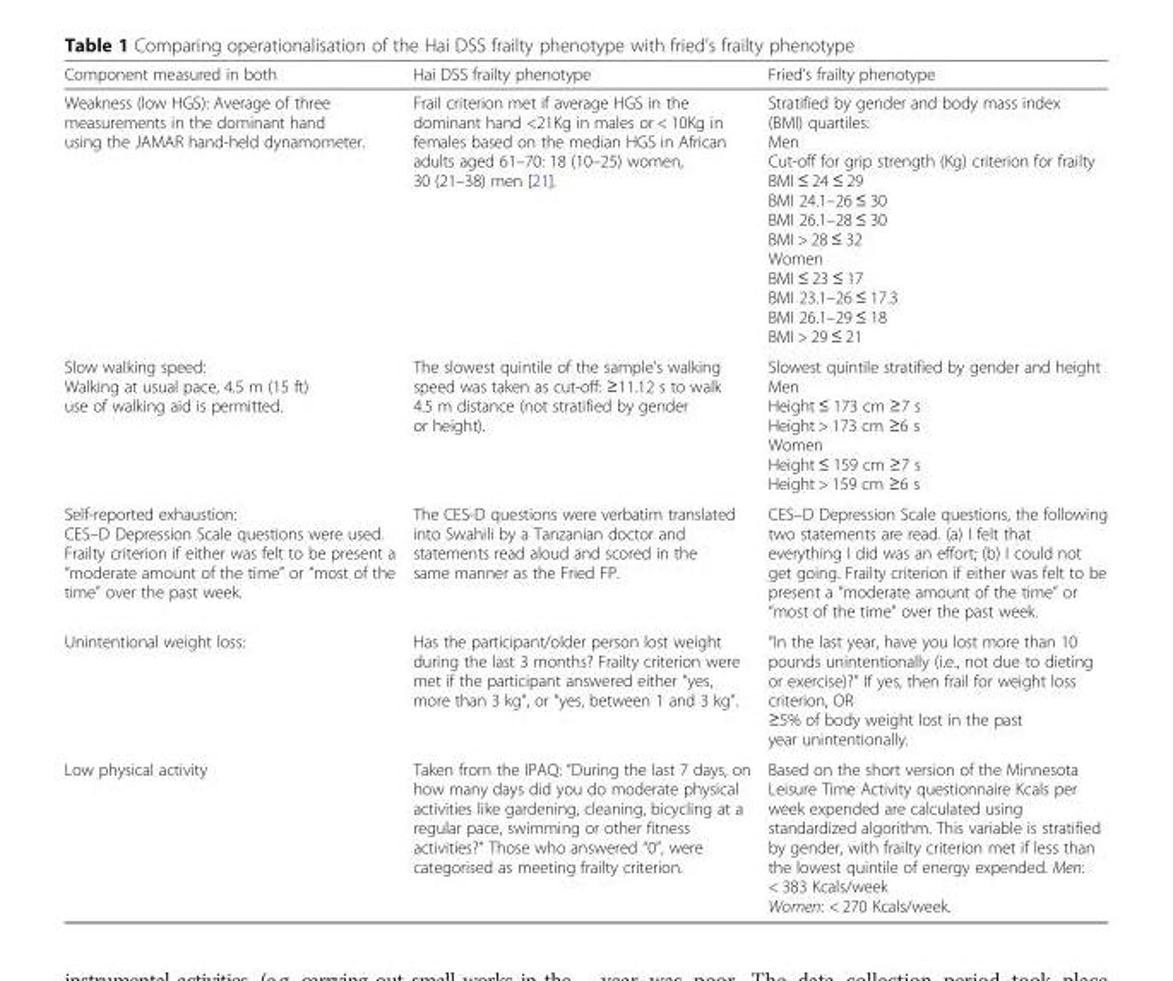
<table><thead><tr><td>Component measured in both</td><td>Hai DSS frailty phenotype</td><td>Fried’s frailty phenotype</td></tr></thead><tbody><tr><td>Weakness (low HGS): Average of three measurements in the dominant hand using the JAMAR hand-held dynamometer.</td><td>Frail criterion met if average HGS in the dominant hand &lt;21Kg in males or &lt; 10Kg in females based on the median HGS in African adults aged 61–70: 18 (10–25) women, 30 (21–38) men [21].</td><td>Stratified by gender and body mass index (BMI) quartiles: Men Cut-off for grip strength (Kg) criterion for frailty BMI ≤ 24 ≤ 29 BMI 24.1–26 ≤ 30 BMI 26.1–28 ≤ 30 BMI &gt; 28 ≤ 32 Women BMI ≤ 23 ≤ 17 BMI 23.1–26 ≤ 17.3 BMI 26.1–29 ≤ 18 BMI &gt; 29 ≤ 21</td></tr><tr><td>Slow walking speed: Walking at usual pace, 4.5 m (15 ft) use of walking aid is permitted.</td><td>The slowest quintile of the sample’s walking speed was taken as cut-off: ≥11.12 s to walk 4.5 m distance (not stratified by gender or height).</td><td>Slowest quintile stratified by gender and height Men Height ≤ 173 cm ≥7 s Height &gt; 173 cm ≥6 s Women Height ≤ 159 cm ≥7 s Height &gt; 159 cm ≥6 s</td></tr><tr><td>Self-reported exhaustion: CES–D Depression Scale questions were used. Frailty criterion if either was felt to be present a “moderate amount of the time” or “most of the time” over the past week.</td><td>The CES-D questions were verbatim translated into Swahili by a Tanzanian doctor and statements read aloud and scored in the same manner as the Fried FP.</td><td>CES–D Depression Scale questions, the following two statements are read. (a) I felt that everything I did was an effort; (b) I could not get going. Frailty criterion if either was felt to be present a “moderate amount of the time” or “most of the time” over the past week.</td></tr><tr><td>Unintentional weight loss:</td><td>Has the participant/older person lost weight during the last 3 months? Frailty criterion were met if the participant answered either “yes, more than 3 kg”, or “yes, between 1 and 3 kg”.</td><td>“In the last year, have you lost more than 10 pounds unintentionally (i.e., not due to dieting or exercise)?” If yes, then frail for weight loss criterion, OR ≥5% of body weight lost in the past year unintentionally.</td></tr><tr><td>Low physical activity</td><td>Taken from the IPAQ: “During the last 7 days, on how many days did you do moderate physical activities like gardening, cleaning, bicycling at a regular pace, swimming or other fitness activities?” Those who answered “0”, were categorised as meeting frailty criterion.</td><td>Based on the short version of the Minnesota Leisure Time Activity questionnaire Kcals per week expended are calculated using standardized algorithm. This variable is stratified by gender, with frailty criterion met if less than the lowest quintile of energy expended. Men: &lt; 383 Kcals/week Women: &lt; 270 Kcals/week.</td></tr></tbody></table>